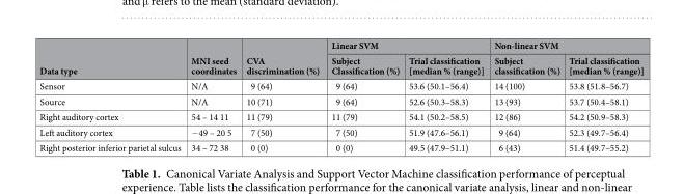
<table><thead><tr><td rowspan="2">Data type</td><td rowspan="2">MNI seed coordinates</td><td rowspan="2">CVA discrimination (%)</td><td colspan="2">Linear SVM</td><td colspan="2">Non-linear SVM</td></tr><tr><td>Subject Classification (%)</td><td>Trial classification [median % (range)]</td><td>Subject classification (%)</td><td>Trial classification [median % (range)]</td></tr></thead><tbody><tr><td>Sensor</td><td>N/A</td><td>9 (64)</td><td>9 (64)</td><td>53.6 (50.1–56.4)</td><td>14 (100)</td><td>53.8 (51.8–56.7)</td></tr><tr><td>Source</td><td>N/A</td><td>10 (71)</td><td>9 (64)</td><td>52.6 (50.3–58.3)</td><td>13 (93)</td><td>53.7 (50.4–58.1)</td></tr><tr><td>Right auditory cortex</td><td>54 – 14 11</td><td>11 (79)</td><td>11 (79)</td><td>54.1 (50.2–58.5)</td><td>12 (86)</td><td>54.2 (50.9–58.3)</td></tr><tr><td>Left auditory cortex</td><td>−49 – 20 5</td><td>7 (50)</td><td>7 (50)</td><td>51.9 (47.6–56.1)</td><td>9 (64)</td><td>52.3 (49.7–56.4)</td></tr><tr><td>Right posterior inferior parietal sulcus</td><td>34 – 72 38</td><td>0 (0)</td><td>0 (0)</td><td>49.5 (47.9–51.1)</td><td>6 (43)</td><td>51.4 (49.7–55.2)</td></tr></tbody></table>